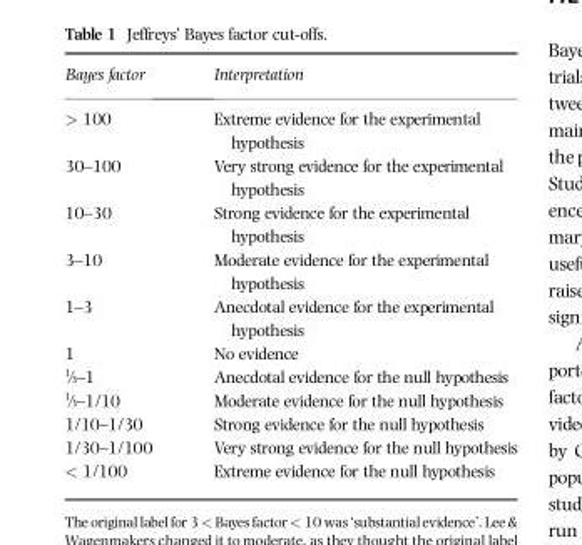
<table><thead><tr><td>Bayes factor</td><td>Interpretation</td></tr></thead><tbody><tr><td>&gt; 100</td><td>Extreme evidence for the experimental hypothesis</td></tr><tr><td>30–100</td><td>Very strong evidence for the experimental hypothesis</td></tr><tr><td>10–30</td><td>Strong evidence for the experimental hypothesis</td></tr><tr><td>3–10</td><td>Moderate evidence for the experimental hypothesis</td></tr><tr><td>1–3</td><td>Anecdotal evidence for the experimental hypothesis</td></tr><tr><td>1</td><td>No evidence</td></tr><tr><td>⅓–1</td><td>Anecdotal evidence for the null hypothesis</td></tr><tr><td>⅓–1/10</td><td>Moderate evidence for the null hypothesis</td></tr><tr><td>1/10–1/30</td><td>Strong evidence for the null hypothesis</td></tr><tr><td>1/30–1/100</td><td>Very strong evidence for the null hypothesis</td></tr><tr><td>&lt; 1/100</td><td>Extreme evidence for the null hypothesis</td></tr></tbody></table>